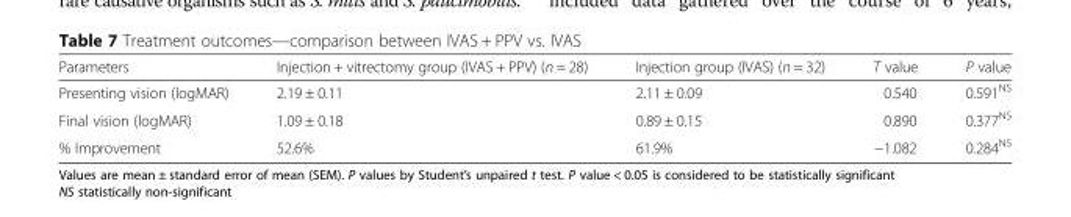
<table><thead><tr><td>Parameters</td><td>Injection + vitrectomy group (IVAS + PPV) (n = 28)</td><td>Injection group (IVAS) (n = 32)</td><td>T value</td><td>P value</td></tr></thead><tbody><tr><td>Presenting vision (logMAR)</td><td>2.19 ± 0.11</td><td>2.11 ± 0.09</td><td>0.540</td><td>0.591<sup>NS</sup></td></tr><tr><td>Final vision (logMAR)</td><td>1.09 ± 0.18</td><td>0.89 ± 0.15</td><td>0.890</td><td>0.377<sup>NS</sup></td></tr><tr><td>% Improvement</td><td>52.6%</td><td>61.9%</td><td>−1.082</td><td>0.284<sup>NS</sup></td></tr></tbody></table>